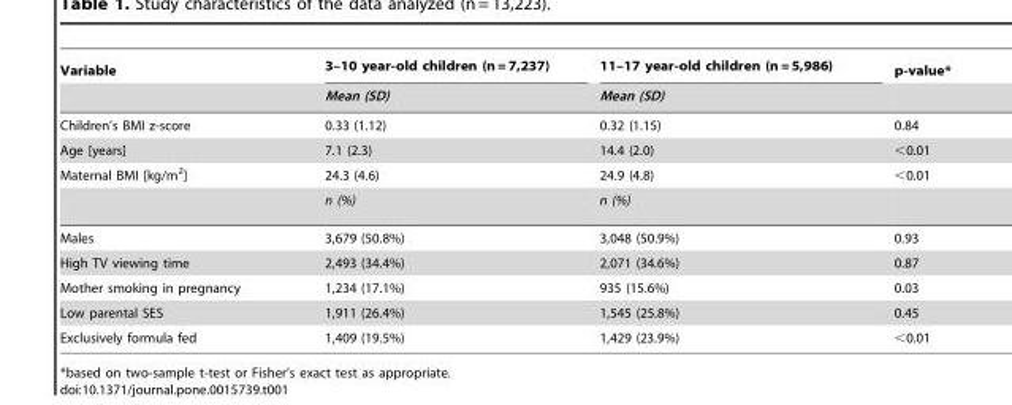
<table><thead><tr><td rowspan="2">Variable</td><td rowspan="2">3–10 year-old children (n = 7,237) Mean (SD)</td><td rowspan="2">11–17 year-old children (n = 5,986) Mean (SD)</td><td rowspan="2">p-value*</td></tr><tr></tr></thead><tbody><tr><td>Children’s BMI z-score</td><td>0.33 (1.12)</td><td>0.32 (1.15)</td><td>0.84</td></tr><tr><td>Age [years]</td><td>7.1 (2.3)</td><td>14.4 (2.0)</td><td>&lt;0.01</td></tr><tr><td rowspan="2">Maternal BMI [kg/m<sup>2</sup>]</td><td>24.3 (4.6)</td><td>24.9 (4.8)</td><td>&lt;0.01</td></tr><tr><td>n (%)</td><td>n (%)</td><td></td></tr><tr><td>Males</td><td>3,679 (50.8%)</td><td>3,048 (50.9%)</td><td>0.93</td></tr><tr><td>High TV viewing time</td><td>2,493 (34.4%)</td><td>2,071 (34.6%)</td><td>0.87</td></tr><tr><td>Mother smoking in pregnancy</td><td>1,234 (17.1%)</td><td>935 (15.6%)</td><td>0.03</td></tr><tr><td>Low parental SES</td><td>1,911 (26.4%)</td><td>1,545 (25.8%)</td><td>0.45</td></tr><tr><td>Exclusively formula fed</td><td>1,409 (19.5%)</td><td>1,429 (23.9%)</td><td>&lt;0.01</td></tr></tbody></table>